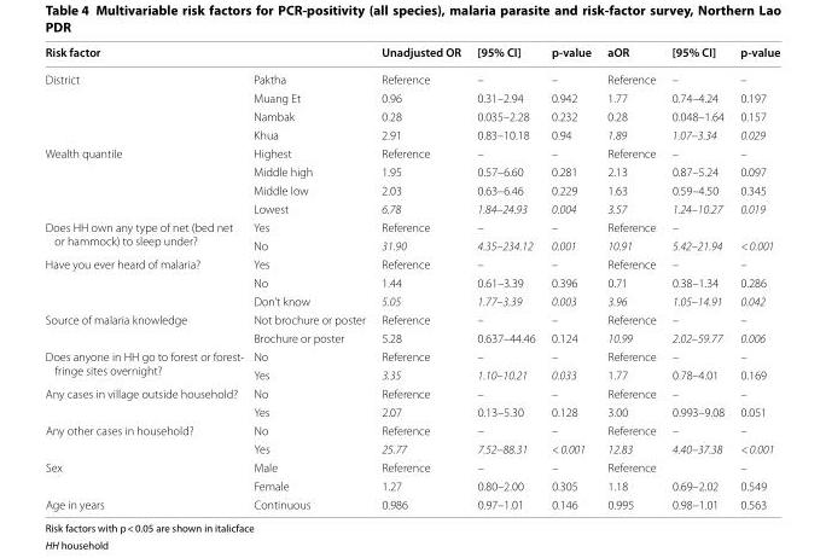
<table><thead><tr><td>Risk factor</td><td></td><td>Unadjusted OR</td><td>[95% CI]</td><td>p‑value</td><td>aOR</td><td>[95% CI]</td><td>p‑value</td></tr></thead><tbody><tr><td rowspan="4">District</td><td>Paktha</td><td>Reference</td><td>–</td><td>–</td><td>Reference</td><td>–</td><td>–</td></tr><tr><td>Muang Et</td><td>0.96</td><td>0.31–2.94</td><td>0.942</td><td>1.77</td><td>0.74–4.24</td><td>0.197</td></tr><tr><td>Nambak</td><td>0.28</td><td>0.035–2.28</td><td>0.232</td><td>0.28</td><td>0.048–1.64</td><td>0.157</td></tr><tr><td>Khua</td><td>2.91</td><td>0.83–10.18</td><td>0.94</td><td>1.89</td><td>1.07–3.34</td><td>0.029</td></tr><tr><td rowspan="4">Wealth quantile</td><td>Highest</td><td>Reference</td><td>–</td><td>–</td><td>Reference</td><td>–</td><td>–</td></tr><tr><td>Middle high</td><td>1.95</td><td>0.57–6.60</td><td>0.281</td><td>2.13</td><td>0.87–5.24</td><td>0.097</td></tr><tr><td>Middle low</td><td>2.03</td><td>0.63–6.46</td><td>0.229</td><td>1.63</td><td>0.59–4.50</td><td>0.345</td></tr><tr><td>Lowest</td><td>6.78</td><td>1.84–24.93</td><td>0.004</td><td>3.57</td><td>1.24–10.27</td><td>0.019</td></tr><tr><td rowspan="2">Does HH own any type of net (bed net or hammock) to sleep under?</td><td>Yes</td><td>Reference</td><td>–</td><td>–</td><td>Reference</td><td>–</td><td></td></tr><tr><td>No</td><td>31.90</td><td>4.35–234.12</td><td>0.001</td><td>10.91</td><td>5.42–21.94</td><td>&lt; 0.001</td></tr><tr><td rowspan="3">Have you ever heard of malaria?</td><td>Yes</td><td>Reference</td><td>–</td><td>–</td><td>Reference</td><td>–</td><td>–</td></tr><tr><td>No</td><td>1.44</td><td>0.61–3.39</td><td>0.396</td><td>0.71</td><td>0.38–1.34</td><td>0.286</td></tr><tr><td>Don’t know</td><td>5.05</td><td>1.77–3.39</td><td>0.003</td><td>3.96</td><td>1.05–14.91</td><td>0.042</td></tr><tr><td rowspan="2">Source of malaria knowledge</td><td>Not brochure or poster</td><td>Reference</td><td>–</td><td>–</td><td>Reference</td><td>–</td><td>–</td></tr><tr><td>Brochure or poster</td><td>5.28</td><td>0.637–44.46</td><td>0.124</td><td>10.99</td><td>2.02–59.77</td><td>0.006</td></tr><tr><td rowspan="2">Does anyone in HH go to forest or forest- fringe sites overnight?</td><td>No</td><td>Reference</td><td>–</td><td>–</td><td>Reference</td><td>–</td><td>–</td></tr><tr><td>Yes</td><td>3.35</td><td>1.10–10.21</td><td>0.033</td><td>1.77</td><td>0.78–4.01</td><td>0.169</td></tr><tr><td rowspan="2">Any cases in village outside household?</td><td>No</td><td>Reference</td><td>–</td><td>–</td><td>Reference</td><td>–</td><td>–</td></tr><tr><td>Yes</td><td>2.07</td><td>0.13–5.30</td><td>0.128</td><td>3.00</td><td>0.993–9.08</td><td>0.051</td></tr><tr><td rowspan="2">Any other cases in household?</td><td>No</td><td>Reference</td><td>–</td><td>–</td><td>Reference</td><td>–</td><td>–</td></tr><tr><td>Yes</td><td>25.77</td><td>7.52–88.31</td><td>&lt; 0.001</td><td>12.83</td><td>4.40–37.38</td><td>&lt; 0.001</td></tr><tr><td rowspan="2">Sex</td><td>Male</td><td>Reference</td><td>–</td><td>–</td><td>Reference</td><td></td><td>–</td></tr><tr><td>Female</td><td>1.27</td><td>0.80–2.00</td><td>0.305</td><td>1.18</td><td>0.69–2.02</td><td>0.549</td></tr><tr><td>Age in years</td><td>Continuous</td><td>0.986</td><td>0.97–1.01</td><td>0.146</td><td>0.995</td><td>0.98–1.01</td><td>0.563</td></tr></tbody></table>